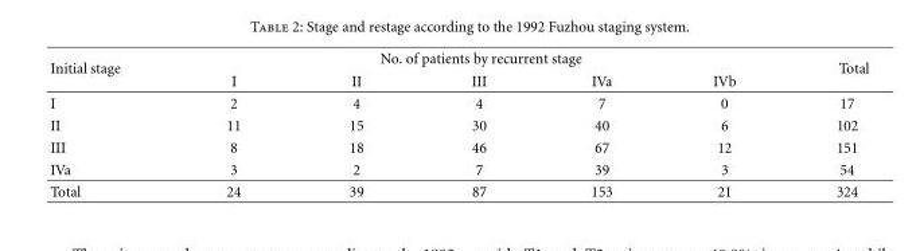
<table><thead><tr><td rowspan="2">Initial stage</td><td colspan="5">No. of patients by recurrent stage</td><td rowspan="2">Total</td></tr><tr><td>I</td><td>II</td><td>III</td><td>IVa</td><td>IVb</td></tr></thead><tbody><tr><td>I</td><td>2</td><td>4</td><td>4</td><td>7</td><td>0</td><td>17</td></tr><tr><td>II</td><td>11</td><td>15</td><td>30</td><td>40</td><td>6</td><td>102</td></tr><tr><td>III</td><td>8</td><td>18</td><td>46</td><td>67</td><td>12</td><td>151</td></tr><tr><td>IVa</td><td>3</td><td>2</td><td>7</td><td>39</td><td>3</td><td>54</td></tr><tr><td>Total</td><td>24</td><td>39</td><td>87</td><td>153</td><td>21</td><td>324</td></tr></tbody></table>